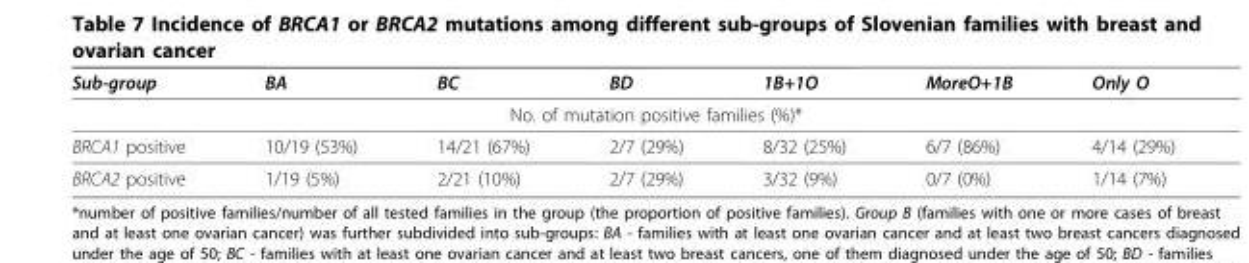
<table><thead><tr><td>Sub-group</td><td>BA</td><td>BC</td><td>BD</td><td>1B+1O</td><td>MoreO+1B</td><td>Only O</td></tr></thead><tbody><tr><td colspan="7">No. of mutation positive families (%)*</td></tr><tr><td>BRCA1 positive</td><td>10/19 (53%)</td><td>14/21 (67%)</td><td>2/7 (29%)</td><td>8/32 (25%)</td><td>6/7 (86%)</td><td>4/14 (29%)</td></tr><tr><td>BRCA2 positive</td><td>1/19 (5%)</td><td>2/21 (10%)</td><td>2/7 (29%)</td><td>3/32 (9%)</td><td>0/7 (0%)</td><td>1/14 (7%)</td></tr></tbody></table>